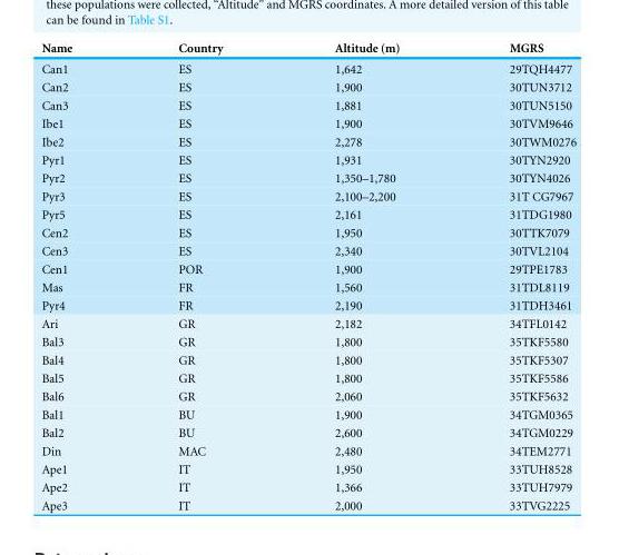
<table><thead><tr><td>Name</td><td>Country</td><td>Altitude (m)</td><td>MGRS</td></tr></thead><tbody><tr><td>Can1</td><td>ES</td><td>1,642</td><td>29TQH4477</td></tr><tr><td>Can2</td><td>ES</td><td>1,900</td><td>30TUN3712</td></tr><tr><td>Can3</td><td>ES</td><td>1,881</td><td>30TUN5150</td></tr><tr><td>Ibe1</td><td>ES</td><td>1,900</td><td>30TVM9646</td></tr><tr><td>Ibe2</td><td>ES</td><td>2,278</td><td>30TWM0276</td></tr><tr><td>Pyr1</td><td>ES</td><td>1,931</td><td>30TYN2920</td></tr><tr><td>Pyr2</td><td>ES</td><td>1,350–1,780</td><td>30TYN4026</td></tr><tr><td>Pyr3</td><td>ES</td><td>2,100–2,200</td><td>31T CG7967</td></tr><tr><td>Pyr5</td><td>ES</td><td>2,161</td><td>31TDG1980</td></tr><tr><td>Cen2</td><td>ES</td><td>1,950</td><td>30TTK7079</td></tr><tr><td>Cen3</td><td>ES</td><td>2,340</td><td>30TVL2104</td></tr><tr><td>Cen1</td><td>POR</td><td>1,900</td><td>29TPE1783</td></tr><tr><td>Mas</td><td>FR</td><td>1,560</td><td>31TDL8119</td></tr><tr><td>Pyr4</td><td>FR</td><td>2,190</td><td>31TDH3461</td></tr><tr><td>Ari</td><td>GR</td><td>2,182</td><td>34TFL0142</td></tr><tr><td>Bal3</td><td>GR</td><td>1,800</td><td>35TKF5580</td></tr><tr><td>Bal4</td><td>GR</td><td>1,800</td><td>35TKF5307</td></tr><tr><td>Bal5</td><td>GR</td><td>1,800</td><td>35TKF5586</td></tr><tr><td>Bal6</td><td>GR</td><td>2,060</td><td>35TKF5632</td></tr><tr><td>Bal1</td><td>BU</td><td>1,900</td><td>34TGM0365</td></tr><tr><td>Bal2</td><td>BU</td><td>2,600</td><td>34TGM0229</td></tr><tr><td>Din</td><td>MAC</td><td>2,480</td><td>34TEM2771</td></tr><tr><td>Ape1</td><td>IT</td><td>1,950</td><td>33TUH8528</td></tr><tr><td>Ape2</td><td>IT</td><td>1,366</td><td>33TUH7979</td></tr><tr><td>Ape3</td><td>IT</td><td>2,000</td><td>33TVG2225</td></tr></tbody></table>